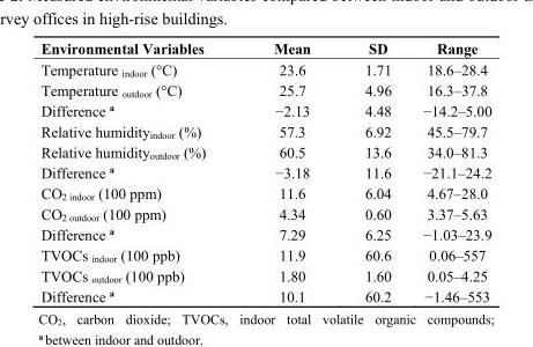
<table><thead><tr><td>Environmental Variables</td><td>Mean</td><td>SD</td><td>Range</td></tr></thead><tbody><tr><td>Temperature <sub>indoor</sub> (°C)</td><td>23.6</td><td>1.71</td><td>18.6–28.4</td></tr><tr><td>Temperature <sub>outdoor</sub> (°C)</td><td>25.7</td><td>4.96</td><td>16.3–37.8</td></tr><tr><td>Difference <sup>a</sup></td><td>−2.13</td><td>4.48</td><td>−14.2–5.00</td></tr><tr><td>Relative humidity<sub>indoor</sub> (%)</td><td>57.3</td><td>6.92</td><td>45.5–79.7</td></tr><tr><td>Relative humidity<sub>outdoor</sub> (%)</td><td>60.5</td><td>13.6</td><td>34.0–81.3</td></tr><tr><td>Difference <sup>a</sup></td><td>−3.18</td><td>11.6</td><td>−21.1–24.2</td></tr><tr><td>CO<sub>2 indoor</sub> (100 ppm)</td><td>11.6</td><td>6.04</td><td>4.67–28.0</td></tr><tr><td>CO<sub>2 outdoor</sub> (100 ppm)</td><td>4.34</td><td>0.60</td><td>3.37–5.63</td></tr><tr><td>Difference <sup>a</sup></td><td>7.29</td><td>6.25</td><td>−1.03–23.9</td></tr><tr><td>TVOCs <sub>indoor</sub> (100 ppb)</td><td>11.9</td><td>60.6</td><td>0.06–557</td></tr><tr><td>TVOCs <sub>outdoor</sub> (100 ppb)</td><td>1.80</td><td>1.60</td><td>0.05–4.25</td></tr><tr><td>Difference <sup>a</sup></td><td>10.1</td><td>60.2</td><td>−1.46–553</td></tr></tbody></table>